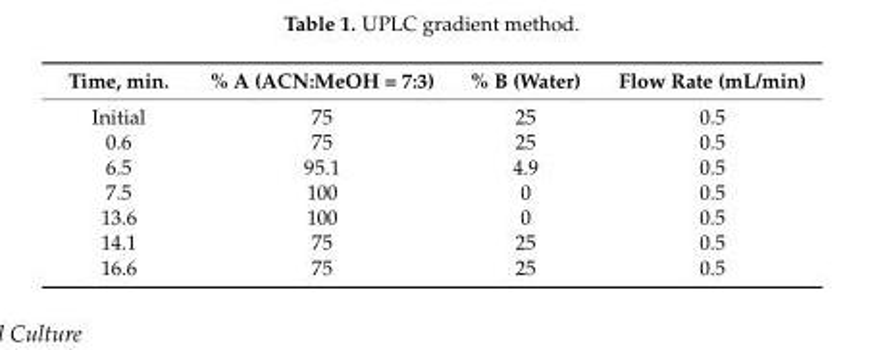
<table><thead><tr><td>Time, min.</td><td>% A (ACN:MeOH = 7:3)</td><td>% B (Water)</td><td>Flow Rate (mL/min)</td></tr></thead><tbody><tr><td>Initial</td><td>75</td><td>25</td><td>0.5</td></tr><tr><td>0.6</td><td>75</td><td>25</td><td>0.5</td></tr><tr><td>6.5</td><td>95.1</td><td>4.9</td><td>0.5</td></tr><tr><td>7.5</td><td>100</td><td>0</td><td>0.5</td></tr><tr><td>13.6</td><td>100</td><td>0</td><td>0.5</td></tr><tr><td>14.1</td><td>75</td><td>25</td><td>0.5</td></tr><tr><td>16.6</td><td>75</td><td>25</td><td>0.5</td></tr></tbody></table>